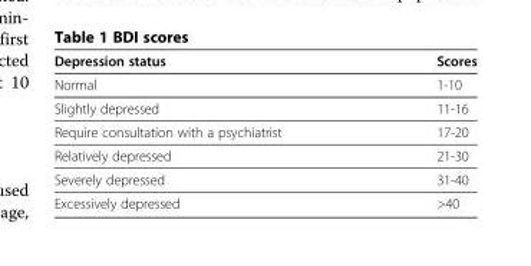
<table><thead><tr><td>Depression status</td><td>Scores</td></tr></thead><tbody><tr><td>Normal</td><td>1-10</td></tr><tr><td>Slightly depressed</td><td>11-16</td></tr><tr><td>Require consultation with a psychiatrist</td><td>17-20</td></tr><tr><td>Relatively depressed</td><td>21-30</td></tr><tr><td>Severely depressed</td><td>31-40</td></tr><tr><td>Excessively depressed</td><td>&gt;40</td></tr></tbody></table>